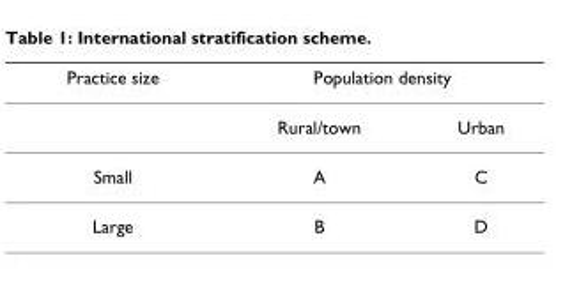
<table><thead><tr><td rowspan="2">Practice size</td><td colspan="2">Population density</td></tr><tr><td>Rural/town</td><td>Urban</td></tr></thead><tbody><tr><td>Small</td><td>A</td><td>C</td></tr><tr><td>Large</td><td>B</td><td>D</td></tr></tbody></table>